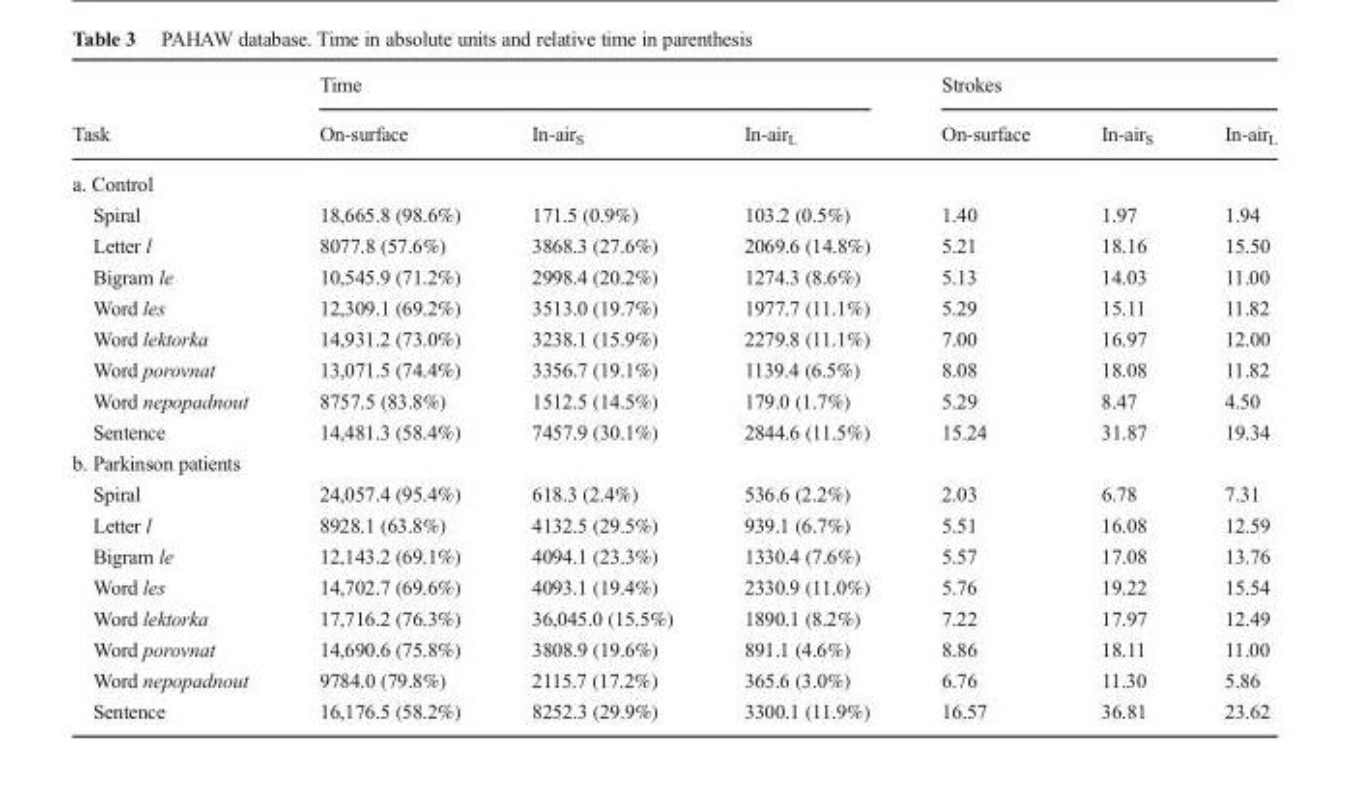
<table><thead><tr><td rowspan="2">Task</td><td colspan="3">Time</td><td colspan="3">Strokes</td></tr><tr><td>On-surface</td><td>In-air<sub>S</sub></td><td>In-air<sub>L</sub></td><td>On-surface</td><td>In-air<sub>S</sub></td><td>In-air<sub>L</sub></td></tr></thead><tbody><tr><td colspan="7">a. Control</td></tr><tr><td>Spiral</td><td>18,665.8 (98.6%)</td><td>171.5 (0.9%)</td><td>103.2 (0.5%)</td><td>1.40</td><td>1.97</td><td>1.94</td></tr><tr><td>Letter l</td><td>8077.8 (57.6%)</td><td>3868.3 (27.6%)</td><td>2069.6 (14.8%)</td><td>5.21</td><td>18.16</td><td>15.50</td></tr><tr><td>Bigram le</td><td>10,545.9 (71.2%)</td><td>2998.4 (20.2%)</td><td>1274.3 (8.6%)</td><td>5.13</td><td>14.03</td><td>11.00</td></tr><tr><td>Word les</td><td>12,309.1 (69.2%)</td><td>3513.0 (19.7%)</td><td>1977.7 (11.1%)</td><td>5.29</td><td>15.11</td><td>11.82</td></tr><tr><td>Word lektorka</td><td>14,931.2 (73.0%)</td><td>3238.1 (15.9%)</td><td>2279.8 (11.1%)</td><td>7.00</td><td>16.97</td><td>12.00</td></tr><tr><td>Word porovnat</td><td>13,071.5 (74.4%)</td><td>3356.7 (19.1%)</td><td>1139.4 (6.5%)</td><td>8.08</td><td>18.08</td><td>11.82</td></tr><tr><td>Word nepopadnout</td><td>8757.5 (83.8%)</td><td>1512.5 (14.5%)</td><td>179.0 (1.7%)</td><td>5.29</td><td>8.47</td><td>4.50</td></tr><tr><td>Sentence</td><td>14,481.3 (58.4%)</td><td>7457.9 (30.1%)</td><td>2844.6 (11.5%)</td><td>15.24</td><td>31.87</td><td>19.34</td></tr><tr><td colspan="7">b. Parkinson patients</td></tr><tr><td>Spiral</td><td>24,057.4 (95.4%)</td><td>618.3 (2.4%)</td><td>536.6 (2.2%)</td><td>2.03</td><td>6.78</td><td>7.31</td></tr><tr><td>Letter l</td><td>8928.1 (63.8%)</td><td>4132.5 (29.5%)</td><td>939.1 (6.7%)</td><td>5.51</td><td>16.08</td><td>12.59</td></tr><tr><td>Bigram le</td><td>12,143.2 (69.1%)</td><td>4094.1 (23.3%)</td><td>1330.4 (7.6%)</td><td>5.57</td><td>17.08</td><td>13.76</td></tr><tr><td>Word les</td><td>14,702.7 (69.6%)</td><td>4093.1 (19.4%)</td><td>2330.9 (11.0%)</td><td>5.76</td><td>19.22</td><td>15.54</td></tr><tr><td>Word lektorka</td><td>17,716.2 (76.3%)</td><td>36,045.0 (15.5%)</td><td>1890.1 (8.2%)</td><td>7.22</td><td>17.97</td><td>12.49</td></tr><tr><td>Word porovnat</td><td>14,690.6 (75.8%)</td><td>3808.9 (19.6%)</td><td>891.1 (4.6%)</td><td>8.86</td><td>18.11</td><td>11.00</td></tr><tr><td>Word nepopadnout</td><td>9784.0 (79.8%)</td><td>2115.7 (17.2%)</td><td>365.6 (3.0%)</td><td>6.76</td><td>11.30</td><td>5.86</td></tr><tr><td>Sentence</td><td>16,176.5 (58.2%)</td><td>8252.3 (29.9%)</td><td>3300.1 (11.9%)</td><td>16.57</td><td>36.81</td><td>23.62</td></tr></tbody></table>